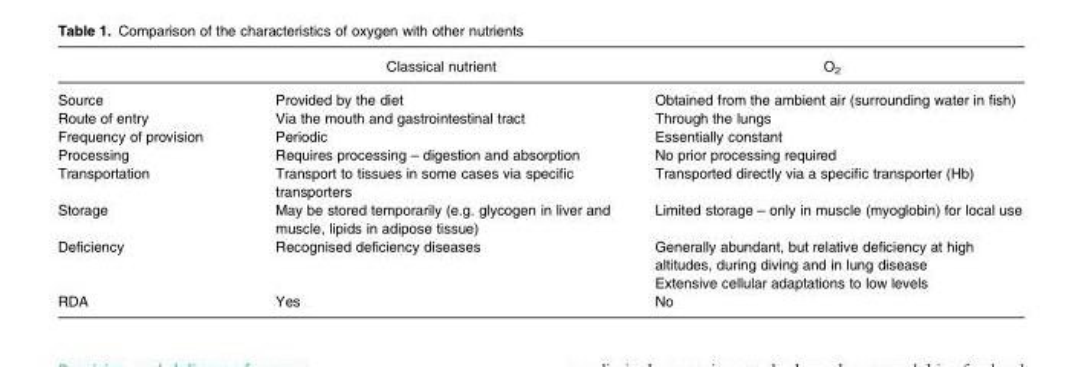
<table><thead><tr><td></td><td>Classical nutrient</td><td>O<sub>2</sub></td></tr></thead><tbody><tr><td>Source</td><td>Provided by the diet</td><td>Obtained from the ambient air (surrounding water in fish)</td></tr><tr><td>Route of entry</td><td>Via the mouth and gastrointestinal tract</td><td>Through the lungs</td></tr><tr><td>Frequency of provision</td><td>Periodic</td><td>Essentially constant</td></tr><tr><td>Processing</td><td>Requires processing – digestion and absorption</td><td>No prior processing required</td></tr><tr><td>Transportation</td><td>Transport to tissues in some cases via specific transporters</td><td>Transported directly via a specific transporter (Hb)</td></tr><tr><td>Storage</td><td>May be stored temporarily (e.g. glycogen in liver and muscle, lipids in adipose tissue)</td><td>Limited storage – only in muscle (myoglobin) for local use</td></tr><tr><td>Deficiency</td><td>Recognised deficiency diseases</td><td>Generally abundant, but relative deficiency at high altitudes, during diving and in lung disease Extensive cellular adaptations to low levels</td></tr><tr><td>RDA</td><td>Yes</td><td>No</td></tr></tbody></table>